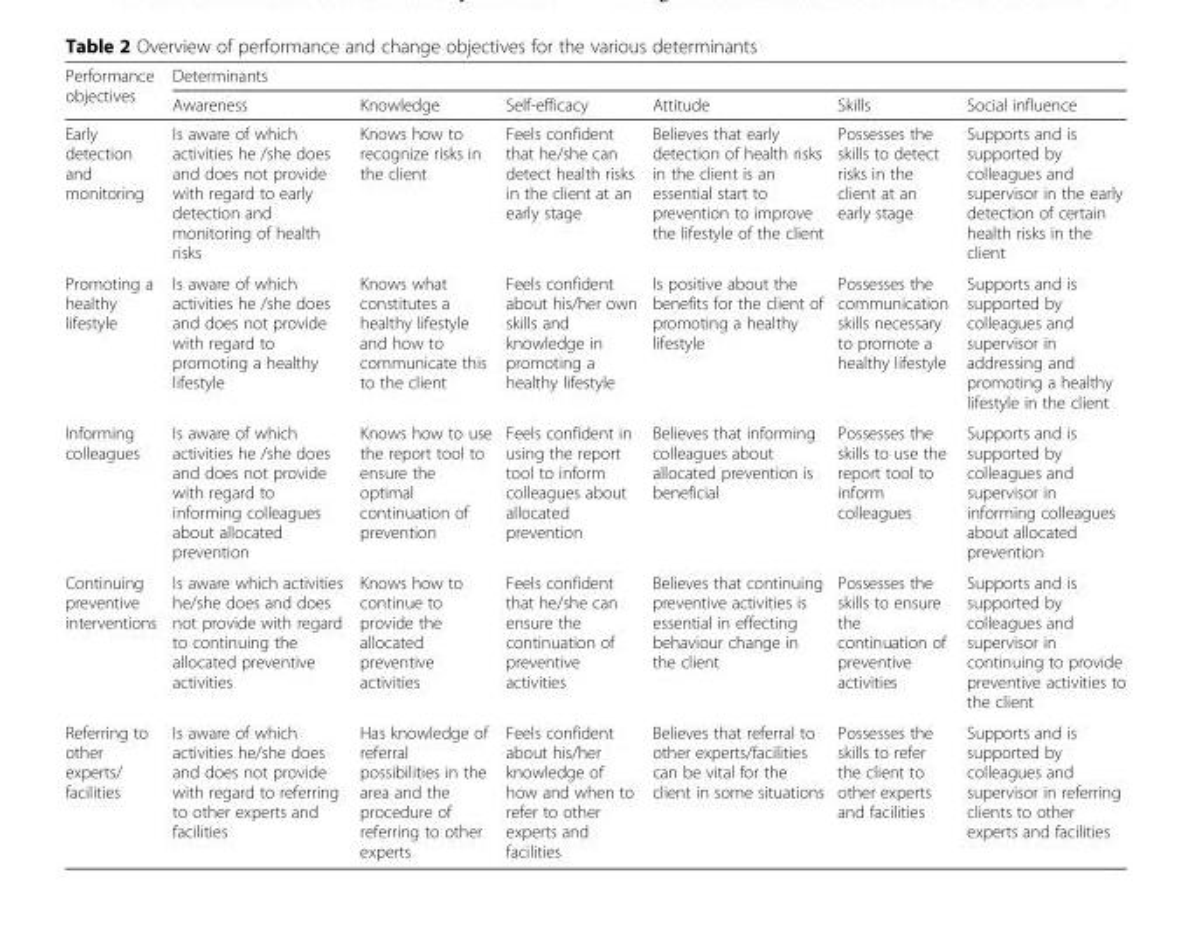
<table><thead><tr><td rowspan="2">Performance objectives</td><td colspan="6">Determinants</td></tr><tr><td>Awareness</td><td>Knowledge</td><td>Self-efficacy</td><td>Attitude</td><td>Skills</td><td>Social influence</td></tr></thead><tbody><tr><td>Early detection and monitoring</td><td>Is aware of which activities he /she does and does not provide with regard to early detection and monitoring of health risks</td><td>Knows how to recognize risks in the client</td><td>Feels confident that he/she can detect health risks in the client at an early stage</td><td>Believes that early detection of health risks in the client is an essential start to prevention to improve the lifestyle of the client</td><td>Possesses the skills to detect risks in the client at an early stage</td><td>Supports and is supported by colleagues and supervisor in the early detection of certain health risks in the client</td></tr><tr><td>Promoting a healthy lifestyle</td><td>Is aware of which activities he /she does and does not provide with regard to promoting a healthy lifestyle</td><td>Knows what constitutes a healthy lifestyle and how to communicate this to the client</td><td>Feels confident about his/her own skills and knowledge in promoting a healthy lifestyle</td><td>Is positive about the benefits for the client of promoting a healthy lifestyle</td><td>Possesses the communication skills necessary to promote a healthy lifestyle</td><td>Supports and is supported by colleagues and supervisor in addressing and promoting a healthy lifestyle in the client</td></tr><tr><td>Informing colleagues</td><td>Is aware of which activities he /she does and does not provide with regard to informing colleagues about allocated prevention</td><td>Knows how to use the report tool to ensure the optimal continuation of prevention</td><td>Feels confident in using the report tool to inform colleagues about allocated prevention</td><td>Believes that informing colleagues about allocated prevention is beneficial</td><td>Possesses the skills to use the report tool to inform colleagues</td><td>Supports and is supported by colleagues and supervisor in informing colleagues about allocated prevention</td></tr><tr><td>Continuing preventive interventions</td><td>Is aware which activities he/she does and does not provide with regard to continuing the allocated preventive activities</td><td>Knows how to continue to provide the allocated preventive activities</td><td>Feels confident that he/she can ensure the continuation of preventive activities</td><td>Believes that continuing preventive activities is essential in effecting behaviour change in the client</td><td>Possesses the skills to ensure the continuation of preventive activities</td><td>Supports and is supported by colleagues and supervisor in continuing to provide preventive activities to the client</td></tr><tr><td>Referring to other experts/ facilities</td><td>Is aware of which activities he/she does and does not provide with regard to referring to other experts and facilities</td><td>Has knowledge of referral possibilities in the area and the procedure of referring to other experts</td><td>Feels confident about his/her knowledge of how and when to refer to other experts and facilities</td><td>Believes that referral to other experts/facilities can be vital for the client in some situations</td><td>Possesses the skills to refer the client to other experts and facilities</td><td>Supports and is supported by colleagues and supervisor in referring clients to other experts and facilities</td></tr></tbody></table>